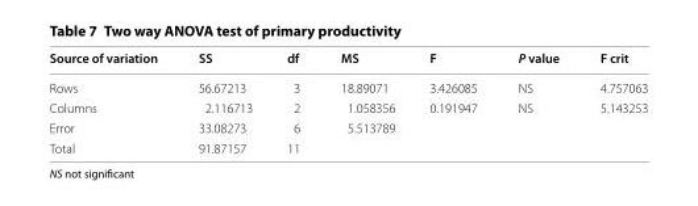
<table><thead><tr><td>Source of variation</td><td>SS</td><td>df</td><td>MS</td><td>F</td><td>P value</td><td>F crit</td></tr></thead><tbody><tr><td>Rows</td><td>56.67213</td><td>3</td><td>18.89071</td><td>3.426085</td><td>NS</td><td>4.757063</td></tr><tr><td>Columns</td><td>2.116713</td><td>2</td><td>1.058356</td><td>0.191947</td><td>NS</td><td>5.143253</td></tr><tr><td>Error</td><td>33.08273</td><td>6</td><td>5.513789</td><td></td><td></td><td></td></tr><tr><td>Total</td><td>91.87157</td><td>11</td><td></td><td></td><td></td><td></td></tr></tbody></table>